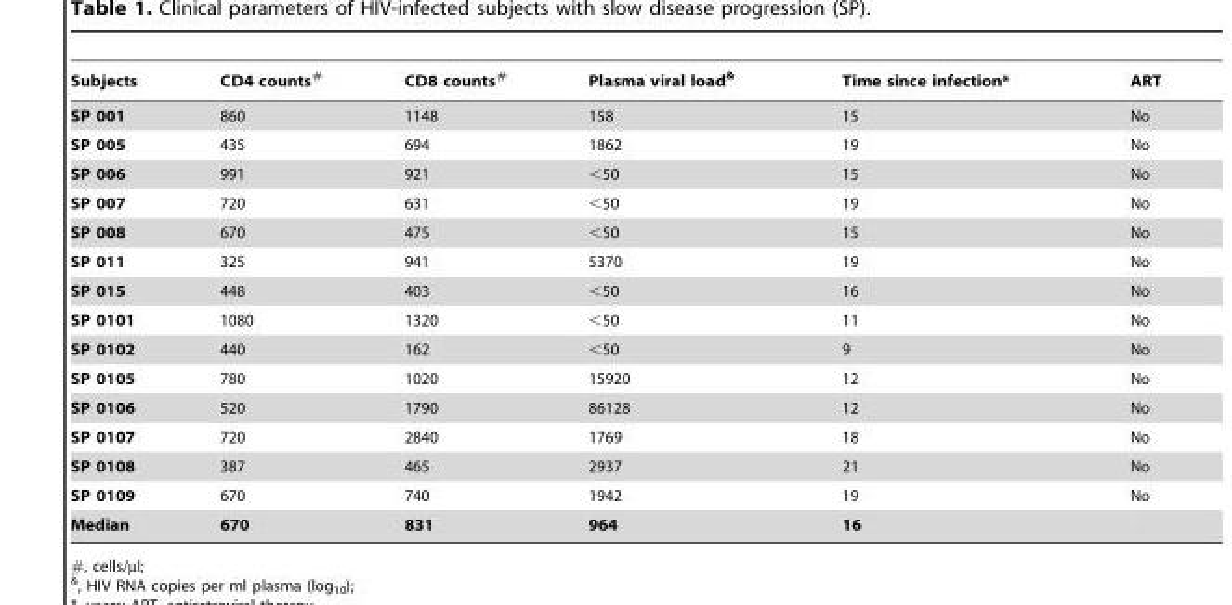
<table><thead><tr><td>Subjects</td><td>CD4 counts#</td><td>CD8 counts#</td><td>Plasma viral load&amp;</td><td>Time since infection*</td><td>ART</td></tr></thead><tbody><tr><td>SP 001</td><td>860</td><td>1148</td><td>158</td><td>15</td><td>No</td></tr><tr><td>SP 005</td><td>435</td><td>694</td><td>1862</td><td>19</td><td>No</td></tr><tr><td>SP 006</td><td>991</td><td>921</td><td>&lt;50</td><td>15</td><td>No</td></tr><tr><td>SP 007</td><td>720</td><td>631</td><td>&lt;50</td><td>19</td><td>No</td></tr><tr><td>SP 008</td><td>670</td><td>475</td><td>&lt;50</td><td>15</td><td>No</td></tr><tr><td>SP 011</td><td>325</td><td>941</td><td>5370</td><td>19</td><td>No</td></tr><tr><td>SP 015</td><td>448</td><td>403</td><td>&lt;50</td><td>16</td><td>No</td></tr><tr><td>SP 0101</td><td>1080</td><td>1320</td><td>&lt;50</td><td>11</td><td>No</td></tr><tr><td>SP 0102</td><td>440</td><td>162</td><td>&lt;50</td><td>9</td><td>No</td></tr><tr><td>SP 0105</td><td>780</td><td>1020</td><td>15920</td><td>12</td><td>No</td></tr><tr><td>SP 0106</td><td>520</td><td>1790</td><td>86128</td><td>12</td><td>No</td></tr><tr><td>SP 0107</td><td>720</td><td>2840</td><td>1769</td><td>18</td><td>No</td></tr><tr><td>SP 0108</td><td>387</td><td>465</td><td>2937</td><td>21</td><td>No</td></tr><tr><td>SP 0109</td><td>670</td><td>740</td><td>1942</td><td>19</td><td>No</td></tr><tr><td>Median</td><td>670</td><td>831</td><td>964</td><td>16</td><td></td></tr></tbody></table>